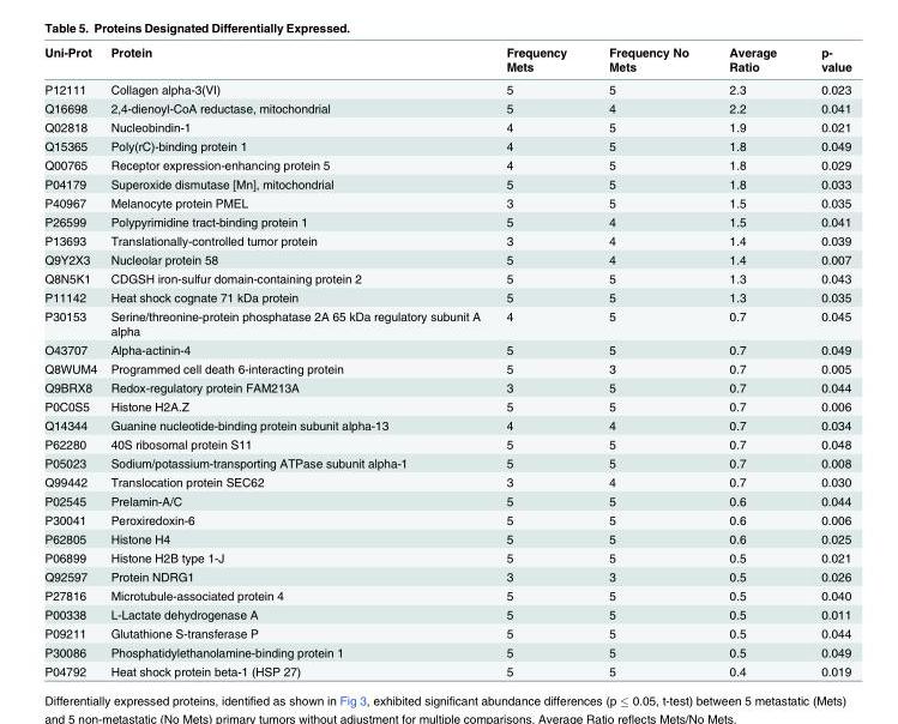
<table><thead><tr><td>Uni-Prot</td><td>Protein</td><td>Frequency Mets</td><td>Frequency No Mets</td><td>Average Ratio</td><td>p- value</td></tr></thead><tbody><tr><td>P12111</td><td>Collagen alpha-3(VI)</td><td>5</td><td>5</td><td>2.3</td><td>0.023</td></tr><tr><td>Q16698</td><td>2,4-dienoyl-CoA reductase, mitochondrial</td><td>5</td><td>4</td><td>2.2</td><td>0.041</td></tr><tr><td>Q02818</td><td>Nucleobindin-1</td><td>4</td><td>5</td><td>1.9</td><td>0.021</td></tr><tr><td>Q15365</td><td>Poly(rC)-binding protein 1</td><td>4</td><td>5</td><td>1.8</td><td>0.049</td></tr><tr><td>Q00765</td><td>Receptor expression-enhancing protein 5</td><td>4</td><td>5</td><td>1.8</td><td>0.029</td></tr><tr><td>P04179</td><td>Superoxide dismutase [Mn], mitochondrial</td><td>5</td><td>5</td><td>1.8</td><td>0.033</td></tr><tr><td>P40967</td><td>Melanocyte protein PMEL</td><td>3</td><td>5</td><td>1.5</td><td>0.035</td></tr><tr><td>P26599</td><td>Polypyrimidine tract-binding protein 1</td><td>5</td><td>4</td><td>1.5</td><td>0.041</td></tr><tr><td>P13693</td><td>Translationally-controlled tumor protein</td><td>3</td><td>4</td><td>1.4</td><td>0.039</td></tr><tr><td>Q9Y2X3</td><td>Nucleolar protein 58</td><td>5</td><td>4</td><td>1.4</td><td>0.007</td></tr><tr><td>Q8N5K1</td><td>CDGSH iron-sulfur domain-containing protein 2</td><td>5</td><td>5</td><td>1.3</td><td>0.043</td></tr><tr><td>P11142</td><td>Heat shock cognate 71 kDa protein</td><td>5</td><td>5</td><td>1.3</td><td>0.035</td></tr><tr><td>P30153</td><td>Serine/threonine-protein phosphatase 2A 65 kDa regulatory subunit A alpha</td><td>4</td><td>5</td><td>0.7</td><td>0.045</td></tr><tr><td>O43707</td><td>Alpha-actinin-4</td><td>5</td><td>5</td><td>0.7</td><td>0.049</td></tr><tr><td>Q8WUM4</td><td>Programmed cell death 6-interacting protein</td><td>5</td><td>3</td><td>0.7</td><td>0.005</td></tr><tr><td>Q9BRX8</td><td>Redox-regulatory protein FAM213A</td><td>3</td><td>5</td><td>0.7</td><td>0.044</td></tr><tr><td>P0C0S5</td><td>Histone H2A.Z</td><td>5</td><td>5</td><td>0.7</td><td>0.006</td></tr><tr><td>Q14344</td><td>Guanine nucleotide-binding protein subunit alpha-13</td><td>4</td><td>4</td><td>0.7</td><td>0.034</td></tr><tr><td>P62280</td><td>40S ribosomal protein S11</td><td>5</td><td>5</td><td>0.7</td><td>0.048</td></tr><tr><td>P05023</td><td>Sodium/potassium-transporting ATPase subunit alpha-1</td><td>5</td><td>5</td><td>0.7</td><td>0.008</td></tr><tr><td>Q99442</td><td>Translocation protein SEC62</td><td>3</td><td>4</td><td>0.7</td><td>0.030</td></tr><tr><td>P02545</td><td>Prelamin-A/C</td><td>5</td><td>5</td><td>0.6</td><td>0.044</td></tr><tr><td>P30041</td><td>Peroxiredoxin-6</td><td>5</td><td>5</td><td>0.6</td><td>0.006</td></tr><tr><td>P62805</td><td>Histone H4</td><td>5</td><td>5</td><td>0.6</td><td>0.025</td></tr><tr><td>P06899</td><td>Histone H2B type 1-J</td><td>5</td><td>5</td><td>0.5</td><td>0.021</td></tr><tr><td>Q92597</td><td>Protein NDRG1</td><td>3</td><td>3</td><td>0.5</td><td>0.026</td></tr><tr><td>P27816</td><td>Microtubule-associated protein 4</td><td>5</td><td>5</td><td>0.5</td><td>0.040</td></tr><tr><td>P00338</td><td>L-Lactate dehydrogenase A</td><td>5</td><td>5</td><td>0.5</td><td>0.011</td></tr><tr><td>P09211</td><td>Glutathione S-transferase P</td><td>5</td><td>5</td><td>0.5</td><td>0.044</td></tr><tr><td>P30086</td><td>Phosphatidylethanolamine-binding protein 1</td><td>5</td><td>5</td><td>0.5</td><td>0.049</td></tr><tr><td>P04792</td><td>Heat shock protein beta-1 (HSP 27)</td><td>5</td><td>5</td><td>0.4</td><td>0.019</td></tr></tbody></table>